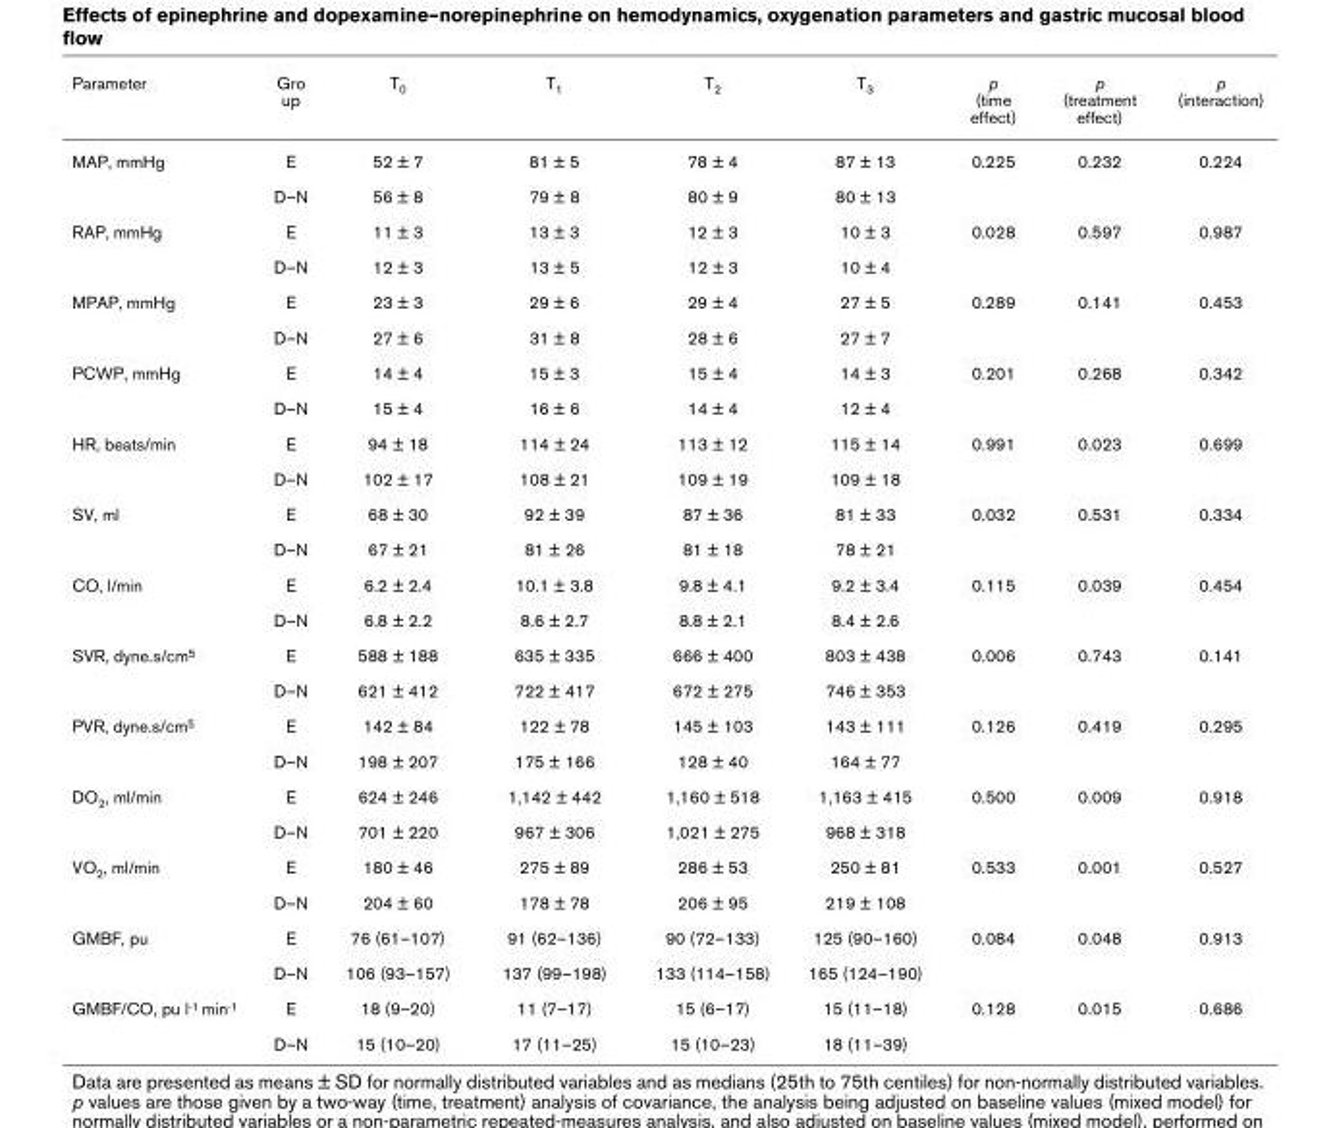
<table><thead><tr><td>Parameter</td><td>Gro up</td><td>T0</td><td>T1</td><td>T2</td><td>T3</td><td>p (time effect)</td><td>p (treatment effect)</td><td>p (interaction)</td></tr></thead><tbody><tr><td rowspan="2">MAP, mmHg</td><td>E</td><td>52 ± 7</td><td>81 ± 5</td><td>78 ± 4</td><td>87 ± 13</td><td>0.225</td><td>0.232</td><td>0.224</td></tr><tr><td>D–N</td><td>56 ± 8</td><td>79 ± 8</td><td>80 ± 9</td><td>80 ± 13</td><td></td><td></td><td></td></tr><tr><td rowspan="2">RAP, mmHg</td><td>E</td><td>11 ± 3</td><td>13 ± 3</td><td>12 ± 3</td><td>10 ± 3</td><td>0.028</td><td>0.597</td><td>0.987</td></tr><tr><td>D–N</td><td>12 ± 3</td><td>13 ± 5</td><td>12 ± 3</td><td>10 ± 4</td><td></td><td></td><td></td></tr><tr><td rowspan="2">MPAP, mmHg</td><td>E</td><td>23 ± 3</td><td>29 ± 6</td><td>29 ± 4</td><td>27 ± 5</td><td>0.289</td><td>0.141</td><td>0.453</td></tr><tr><td>D–N</td><td>27 ± 6</td><td>31 ± 8</td><td>28 ± 6</td><td>27 ± 7</td><td></td><td></td><td></td></tr><tr><td rowspan="2">PCWP, mmHg</td><td>E</td><td>14 ± 4</td><td>15 ± 3</td><td>15 ± 4</td><td>14 ± 3</td><td>0.201</td><td>0.268</td><td>0.342</td></tr><tr><td>D–N</td><td>15 ± 4</td><td>16 ± 6</td><td>14 ± 4</td><td>12 ± 4</td><td></td><td></td><td></td></tr><tr><td rowspan="2">HR, beats/min</td><td>E</td><td>94 ± 18</td><td>114 ± 24</td><td>113 ± 12</td><td>115 ± 14</td><td>0.991</td><td>0.023</td><td>0.699</td></tr><tr><td>D–N</td><td>102 ± 17</td><td>108 ± 21</td><td>109 ± 19</td><td>109 ± 18</td><td></td><td></td><td></td></tr><tr><td rowspan="2">SV, ml</td><td>E</td><td>68 ± 30</td><td>92 ± 39</td><td>87 ± 36</td><td>81 ± 33</td><td>0.032</td><td>0.531</td><td>0.334</td></tr><tr><td>D–N</td><td>67 ± 21</td><td>81 ± 26</td><td>81 ± 18</td><td>78 ± 21</td><td></td><td></td><td></td></tr><tr><td rowspan="2">CO, l/min</td><td>E</td><td>6.2 ± 2.4</td><td>10.1 ± 3.8</td><td>9.8 ± 4.1</td><td>9.2 ± 3.4</td><td>0.115</td><td>0.039</td><td>0.454</td></tr><tr><td>D–N</td><td>6.8 ± 2.2</td><td>8.6 ± 2.7</td><td>8.8 ± 2.1</td><td>8.4 ± 2.6</td><td></td><td></td><td></td></tr><tr><td rowspan="2">SVR, dyne.s/cm5</td><td>E</td><td>588 ± 188</td><td>635 ± 335</td><td>666 ± 400</td><td>803 ± 438</td><td>0.006</td><td>0.743</td><td>0.141</td></tr><tr><td>D–N</td><td>621 ± 412</td><td>722 ± 417</td><td>672 ± 275</td><td>746 ± 353</td><td></td><td></td><td></td></tr><tr><td rowspan="2">PVR, dyne.s/cm5</td><td>E</td><td>142 ± 84</td><td>122 ± 78</td><td>145 ± 103</td><td>143 ± 111</td><td>0.126</td><td>0.419</td><td>0.295</td></tr><tr><td>D–N</td><td>198 ± 207</td><td>175 ± 166</td><td>128 ± 40</td><td>164 ± 77</td><td></td><td></td><td></td></tr><tr><td rowspan="2">DO2, ml/min</td><td>E</td><td>624 ± 246</td><td>1,142 ± 442</td><td>1,160 ± 518</td><td>1,163 ± 415</td><td>0.500</td><td>0.009</td><td>0.918</td></tr><tr><td>D–N</td><td>701 ± 220</td><td>967 ± 306</td><td>1,021 ± 275</td><td>968 ± 318</td><td></td><td></td><td></td></tr><tr><td rowspan="2">VO2, ml/min</td><td>E</td><td>180 ± 46</td><td>275 ± 89</td><td>286 ± 53</td><td>250 ± 81</td><td>0.533</td><td>0.001</td><td>0.527</td></tr><tr><td>D–N</td><td>204 ± 60</td><td>178 ± 78</td><td>206 ± 95</td><td>219 ± 108</td><td></td><td></td><td></td></tr><tr><td rowspan="2">GMBF, pu</td><td>E</td><td>76 (61–107)</td><td>91 (62–136)</td><td>90 (72–133)</td><td>125 (90–160)</td><td>0.084</td><td>0.048</td><td>0.913</td></tr><tr><td>D–N</td><td>106 (93–157)</td><td>137 (99–198)</td><td>133 (114–158)</td><td>165 (124–190)</td><td></td><td></td><td></td></tr><tr><td rowspan="2">GMBF/CO, pu l-1 min-1</td><td>E</td><td>18 (9–20)</td><td>11 (7–17)</td><td>15 (6–17)</td><td>15 (11–18)</td><td>0.128</td><td>0.015</td><td>0.686</td></tr><tr><td>D–N</td><td>15 (10–20)</td><td>17 (11–25)</td><td>15 (10–23)</td><td>18 (11–39)</td><td></td><td></td><td></td></tr></tbody></table>